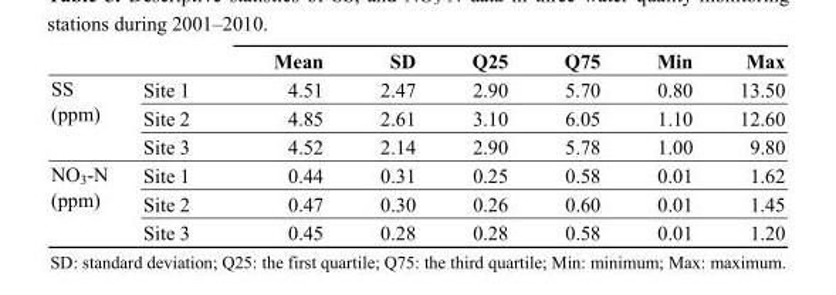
<table><thead><tr><td></td><td></td><td>Mean</td><td>SD</td><td>Q25</td><td>Q75</td><td>Min</td><td>Max</td></tr></thead><tbody><tr><td rowspan="3">SS (ppm)</td><td>Site 1</td><td>4.51</td><td>2.47</td><td>2.90</td><td>5.70</td><td>0.80</td><td>13.50</td></tr><tr><td>Site 2</td><td>4.85</td><td>2.61</td><td>3.10</td><td>6.05</td><td>1.10</td><td>12.60</td></tr><tr><td>Site 3</td><td>4.52</td><td>2.14</td><td>2.90</td><td>5.78</td><td>1.00</td><td>9.80</td></tr><tr><td rowspan="3">NO<sub>3</sub>-N (ppm)</td><td>Site 1</td><td>0.44</td><td>0.31</td><td>0.25</td><td>0.58</td><td>0.01</td><td>1.62</td></tr><tr><td>Site 2</td><td>0.47</td><td>0.30</td><td>0.26</td><td>0.60</td><td>0.01</td><td>1.45</td></tr><tr><td>Site 3</td><td>0.45</td><td>0.28</td><td>0.28</td><td>0.58</td><td>0.01</td><td>1.20</td></tr></tbody></table>